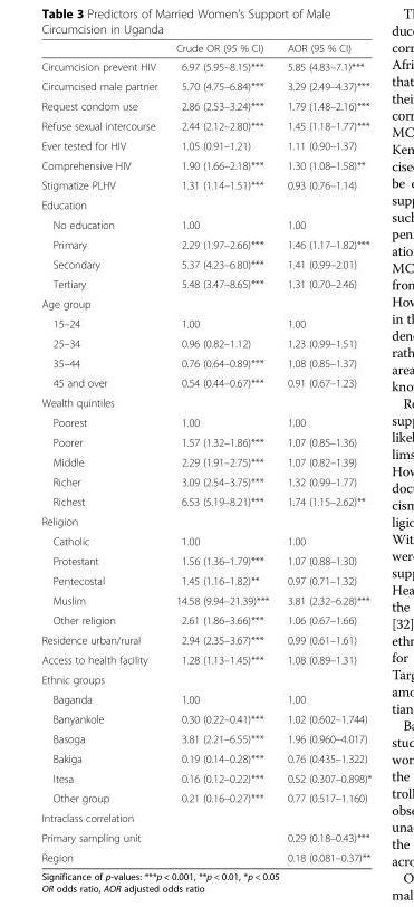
<table><thead><tr><td></td><td>Crude OR (95 % CI)</td><td>AOR (95 % CI)</td></tr></thead><tbody><tr><td>Circumcision prevent HIV</td><td>6.97 (5.95–8.15)***</td><td>5.85 (4.83–7.1)***</td></tr><tr><td>Circumcised male partner</td><td>5.70 (4.75–6.84)***</td><td>3.29 (2.49–4.37)***</td></tr><tr><td>Request condom use</td><td>2.86 (2.53–3.24)***</td><td>1.79 (1.48–2.16)***</td></tr><tr><td>Refuse sexual intercourse</td><td>2.44 (2.12–2.80)***</td><td>1.45 (1.18–1.77)***</td></tr><tr><td>Ever tested for HIV</td><td>1.05 (0.91–1.21)</td><td>1.11 (0.90–1.37)</td></tr><tr><td>Comprehensive HIV</td><td>1.90 (1.66–2.18)***</td><td>1.30 (1.08–1.58)**</td></tr><tr><td>Stigmatize PLHV</td><td>1.31 (1.14–1.51)***</td><td>0.93 (0.76–1.14)</td></tr><tr><td colspan="3">Education</td></tr><tr><td>No education</td><td>1.00</td><td>1.00</td></tr><tr><td>Primary</td><td>2.29 (1.97–2.66)***</td><td>1.46 (1.17–1.82)***</td></tr><tr><td>Secondary</td><td>5.37 (4.23–6.80)***</td><td>1.41 (0.99–2.01)</td></tr><tr><td>Tertiary</td><td>5.48 (3.47–8.65)***</td><td>1.31 (0.70–2.46)</td></tr><tr><td colspan="3">Age group</td></tr><tr><td>15–24</td><td>1.00</td><td>1.00</td></tr><tr><td>25–34</td><td>0.96 (0.82–1.12)</td><td>1.23 (0.99–1.51)</td></tr><tr><td>35–44</td><td>0.76 (0.64–0.89)***</td><td>1.08 (0.85–1.37)</td></tr><tr><td>45 and over</td><td>0.54 (0.44–0.67)***</td><td>0.91 (0.67–1.23)</td></tr><tr><td colspan="3">Wealth quintiles</td></tr><tr><td>Poorest</td><td>1.00</td><td>1.00</td></tr><tr><td>Poorer</td><td>1.57 (1.32–1.86)***</td><td>1.07 (0.85–1.36)</td></tr><tr><td>Middle</td><td>2.29 (1.91–2.75)***</td><td>1.07 (0.82–1.39)</td></tr><tr><td>Richer</td><td>3.09 (2.54–3.75)***</td><td>1.32 (0.99–1.77)</td></tr><tr><td>Richest</td><td>6.53 (5.19–8.21)***</td><td>1.74 (1.15–2.62)**</td></tr><tr><td colspan="3">Religion</td></tr><tr><td>Catholic</td><td>1.00</td><td>1.00</td></tr><tr><td>Protestant</td><td>1.56 (1.36–1.79)***</td><td>1.07 (0.88–1.30)</td></tr><tr><td>Pentecostal</td><td>1.45 (1.16–1.82)**</td><td>0.97 (0.71–1.32)</td></tr><tr><td>Muslim</td><td>14.58 (9.94–21.39)***</td><td>3.81 (2.32–6.28)***</td></tr><tr><td>Other religion</td><td>2.61 (1.86–3.66)***</td><td>1.06 (0.67–1.66)</td></tr><tr><td>Residence urban/rural</td><td>2.94 (2.35–3.67)***</td><td>0.99 (0.61–1.61)</td></tr><tr><td>Access to health facility</td><td>1.28 (1.13–1.45)***</td><td>1.08 (0.89–1.31)</td></tr><tr><td colspan="3">Ethnic groups</td></tr><tr><td>Baganda</td><td>1.00</td><td>1.00</td></tr><tr><td>Banyankole</td><td>0.30 (0.22–0.41)***</td><td>1.02 (0.602–1.744)</td></tr><tr><td>Basoga</td><td>3.81 (2.21–6.55)***</td><td>1.96 (0.960–4.017)</td></tr><tr><td>Bakiga</td><td>0.19 (0.14–0.28)***</td><td>0.76 (0.435–1.322)</td></tr><tr><td>Itesa</td><td>0.16 (0.12–0.22)***</td><td>0.52 (0.307–0.898)*</td></tr><tr><td>Other group</td><td>0.21 (0.16–0.27)***</td><td>0.77 (0.517–1.160)</td></tr><tr><td colspan="3">Intraclass correlation</td></tr><tr><td>Primary sampling unit</td><td></td><td>0.29 (0.18–0.43)***</td></tr><tr><td>Region</td><td></td><td>0.18 (0.081–0.37)**</td></tr></tbody></table>